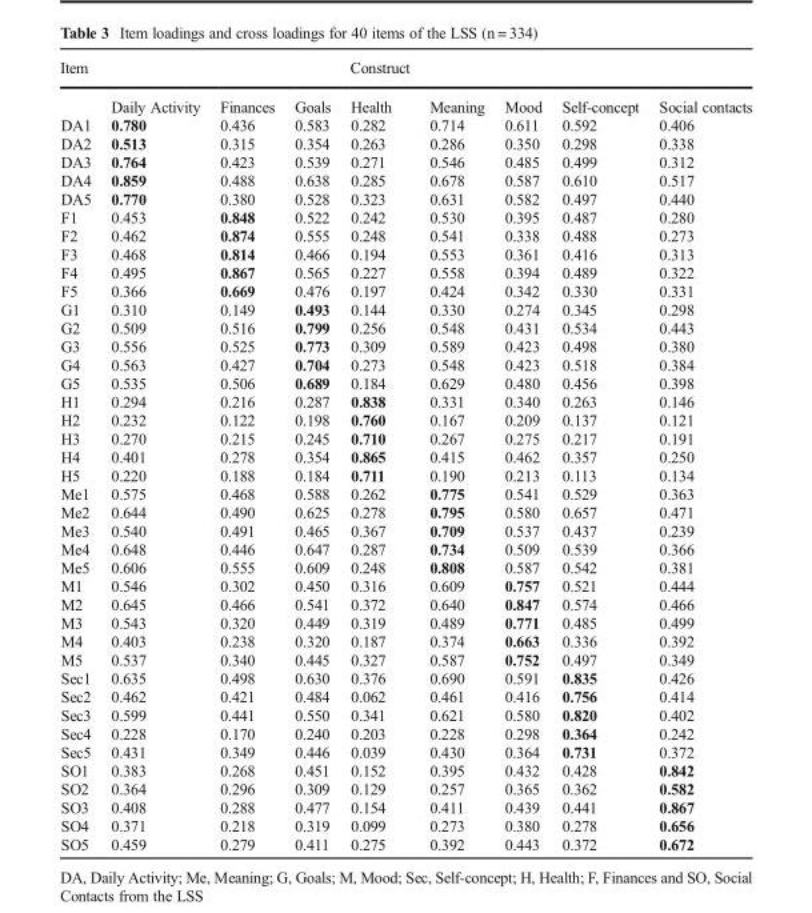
<table><thead><tr><td>Item</td><td></td><td></td><td></td><td>Construct</td><td></td><td></td><td></td><td></td></tr></thead><tbody><tr><td></td><td>Daily Activity</td><td>Finances</td><td>Goals</td><td>Health</td><td>Meaning</td><td>Mood</td><td>Self-concept</td><td>Social contacts</td></tr><tr><td>DA1</td><td>0.780</td><td>0.436</td><td>0.583</td><td>0.282</td><td>0.714</td><td>0.611</td><td>0.592</td><td>0.406</td></tr><tr><td>DA2</td><td>0.513</td><td>0.315</td><td>0.354</td><td>0.263</td><td>0.286</td><td>0.350</td><td>0.298</td><td>0.338</td></tr><tr><td>DA3</td><td>0.764</td><td>0.423</td><td>0.539</td><td>0.271</td><td>0.546</td><td>0.485</td><td>0.499</td><td>0.312</td></tr><tr><td>DA4</td><td>0.859</td><td>0.488</td><td>0.638</td><td>0.285</td><td>0.678</td><td>0.587</td><td>0.610</td><td>0.517</td></tr><tr><td>DA5</td><td>0.770</td><td>0.380</td><td>0.528</td><td>0.323</td><td>0.631</td><td>0.582</td><td>0.497</td><td>0.440</td></tr><tr><td>F1</td><td>0.453</td><td>0.848</td><td>0.522</td><td>0.242</td><td>0.530</td><td>0.395</td><td>0.487</td><td>0.280</td></tr><tr><td>F2</td><td>0.462</td><td>0.874</td><td>0.555</td><td>0.248</td><td>0.541</td><td>0.338</td><td>0.488</td><td>0.273</td></tr><tr><td>F3</td><td>0.468</td><td>0.814</td><td>0.466</td><td>0.194</td><td>0.553</td><td>0.361</td><td>0.416</td><td>0.313</td></tr><tr><td>F4</td><td>0.495</td><td>0.867</td><td>0.565</td><td>0.227</td><td>0.558</td><td>0.394</td><td>0.489</td><td>0.322</td></tr><tr><td>F5</td><td>0.366</td><td>0.669</td><td>0.476</td><td>0.197</td><td>0.424</td><td>0.342</td><td>0.330</td><td>0.331</td></tr><tr><td>G1</td><td>0.310</td><td>0.149</td><td>0.493</td><td>0.144</td><td>0.330</td><td>0.274</td><td>0.345</td><td>0.298</td></tr><tr><td>G2</td><td>0.509</td><td>0.516</td><td>0.799</td><td>0.256</td><td>0.548</td><td>0.431</td><td>0.534</td><td>0.443</td></tr><tr><td>G3</td><td>0.556</td><td>0.525</td><td>0.773</td><td>0.309</td><td>0.589</td><td>0.423</td><td>0.498</td><td>0.380</td></tr><tr><td>G4</td><td>0.563</td><td>0.427</td><td>0.704</td><td>0.273</td><td>0.548</td><td>0.423</td><td>0.518</td><td>0.384</td></tr><tr><td>G5</td><td>0.535</td><td>0.506</td><td>0.689</td><td>0.184</td><td>0.629</td><td>0.480</td><td>0.456</td><td>0.398</td></tr><tr><td>H1</td><td>0.294</td><td>0.216</td><td>0.287</td><td>0.838</td><td>0.331</td><td>0.340</td><td>0.263</td><td>0.146</td></tr><tr><td>H2</td><td>0.232</td><td>0.122</td><td>0.198</td><td>0.760</td><td>0.167</td><td>0.209</td><td>0.137</td><td>0.121</td></tr><tr><td>H3</td><td>0.270</td><td>0.215</td><td>0.245</td><td>0.710</td><td>0.267</td><td>0.275</td><td>0.217</td><td>0.191</td></tr><tr><td>H4</td><td>0.401</td><td>0.278</td><td>0.354</td><td>0.865</td><td>0.415</td><td>0.462</td><td>0.357</td><td>0.250</td></tr><tr><td>H5</td><td>0.220</td><td>0.188</td><td>0.184</td><td>0.711</td><td>0.190</td><td>0.213</td><td>0.113</td><td>0.134</td></tr><tr><td>Me1</td><td>0.575</td><td>0.468</td><td>0.588</td><td>0.262</td><td>0.775</td><td>0.541</td><td>0.529</td><td>0.363</td></tr><tr><td>Me2</td><td>0.644</td><td>0.490</td><td>0.625</td><td>0.278</td><td>0.795</td><td>0.580</td><td>0.657</td><td>0.471</td></tr><tr><td>Me3</td><td>0.540</td><td>0.491</td><td>0.465</td><td>0.367</td><td>0.709</td><td>0.537</td><td>0.437</td><td>0.239</td></tr><tr><td>Me4</td><td>0.648</td><td>0.446</td><td>0.647</td><td>0.287</td><td>0.734</td><td>0.509</td><td>0.539</td><td>0.366</td></tr><tr><td>Me5</td><td>0.606</td><td>0.555</td><td>0.609</td><td>0.248</td><td>0.808</td><td>0.587</td><td>0.542</td><td>0.381</td></tr><tr><td>M1</td><td>0.546</td><td>0.302</td><td>0.450</td><td>0.316</td><td>0.609</td><td>0.757</td><td>0.521</td><td>0.444</td></tr><tr><td>M2</td><td>0.645</td><td>0.466</td><td>0.541</td><td>0.372</td><td>0.640</td><td>0.847</td><td>0.574</td><td>0.466</td></tr><tr><td>M3</td><td>0.543</td><td>0.320</td><td>0.449</td><td>0.319</td><td>0.489</td><td>0.771</td><td>0.485</td><td>0.499</td></tr><tr><td>M4</td><td>0.403</td><td>0.238</td><td>0.320</td><td>0.187</td><td>0.374</td><td>0.663</td><td>0.336</td><td>0.392</td></tr><tr><td>M5</td><td>0.537</td><td>0.340</td><td>0.445</td><td>0.327</td><td>0.587</td><td>0.752</td><td>0.497</td><td>0.349</td></tr><tr><td>Sec1</td><td>0.635</td><td>0.498</td><td>0.630</td><td>0.376</td><td>0.690</td><td>0.591</td><td>0.835</td><td>0.426</td></tr><tr><td>Sec2</td><td>0.462</td><td>0.421</td><td>0.484</td><td>0.062</td><td>0.461</td><td>0.416</td><td>0.756</td><td>0.414</td></tr><tr><td>Sec3</td><td>0.599</td><td>0.441</td><td>0.550</td><td>0.341</td><td>0.621</td><td>0.580</td><td>0.820</td><td>0.402</td></tr><tr><td>Sec4</td><td>0.228</td><td>0.170</td><td>0.240</td><td>0.203</td><td>0.228</td><td>0.298</td><td>0.364</td><td>0.242</td></tr><tr><td>Sec5</td><td>0.431</td><td>0.349</td><td>0.446</td><td>0.039</td><td>0.430</td><td>0.364</td><td>0.731</td><td>0.372</td></tr><tr><td>SO1</td><td>0.383</td><td>0.268</td><td>0.451</td><td>0.152</td><td>0.395</td><td>0.432</td><td>0.428</td><td>0.842</td></tr><tr><td>SO2</td><td>0.364</td><td>0.296</td><td>0.309</td><td>0.129</td><td>0.257</td><td>0.365</td><td>0.362</td><td>0.582</td></tr><tr><td>SO3</td><td>0.408</td><td>0.288</td><td>0.477</td><td>0.154</td><td>0.411</td><td>0.439</td><td>0.441</td><td>0.867</td></tr><tr><td>SO4</td><td>0.371</td><td>0.218</td><td>0.319</td><td>0.099</td><td>0.273</td><td>0.380</td><td>0.278</td><td>0.656</td></tr><tr><td>SO5</td><td>0.459</td><td>0.279</td><td>0.411</td><td>0.275</td><td>0.392</td><td>0.443</td><td>0.372</td><td>0.672</td></tr></tbody></table>